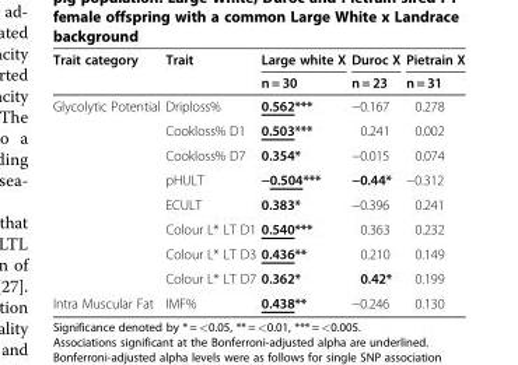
<table><thead><tr><td rowspan="2">Trait category</td><td rowspan="2">Trait</td><td rowspan="2">Large white X n = 30</td><td rowspan="2">Duroc X n = 23</td><td rowspan="2">Pietrain X n = 31</td></tr><tr></tr></thead><tbody><tr><td rowspan="8">Glycolytic Potential</td><td>Driploss%</td><td>0.562***</td><td>−0.167</td><td>0.278</td></tr><tr><td>Cookloss% D1</td><td>0.503***</td><td>0.241</td><td>0.002</td></tr><tr><td>Cookloss% D7</td><td>0.354*</td><td>−0.015</td><td>0.074</td></tr><tr><td>pHULT</td><td>−0.504***</td><td>−0.44*</td><td>−0.312</td></tr><tr><td>ECULT</td><td>0.383*</td><td>−0.396</td><td>0.241</td></tr><tr><td>Colour L* LT D1</td><td>0.540***</td><td>0.363</td><td>0.232</td></tr><tr><td>Colour L* LT D3</td><td>0.436**</td><td>0.210</td><td>0.149</td></tr><tr><td>Colour L* LT D7</td><td>0.362*</td><td>0.42*</td><td>0.199</td></tr><tr><td>Intra Muscular Fat</td><td>IMF%</td><td>0.438**</td><td>−0.246</td><td>0.130</td></tr></tbody></table>